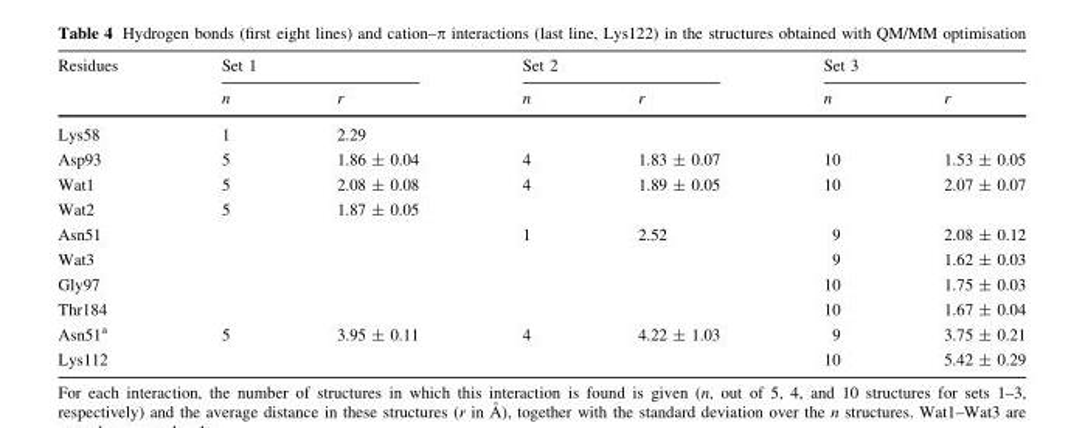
<table><thead><tr><td rowspan="2">Residues</td><td colspan="2">Set 1</td><td colspan="2">Set 2</td><td colspan="2">Set 3</td></tr><tr><td>n</td><td>r</td><td>n</td><td>r</td><td>n</td><td>r</td></tr></thead><tbody><tr><td>Lys58</td><td>1</td><td>2.29</td><td></td><td></td><td></td><td></td></tr><tr><td>Asp93</td><td>5</td><td>1.86 ± 0.04</td><td>4</td><td>1.83 ± 0.07</td><td>10</td><td>1.53 ± 0.05</td></tr><tr><td>Wat1</td><td>5</td><td>2.08 ± 0.08</td><td>4</td><td>1.89 ± 0.05</td><td>10</td><td>2.07 ± 0.07</td></tr><tr><td>Wat2</td><td>5</td><td>1.87 ± 0.05</td><td></td><td></td><td></td><td></td></tr><tr><td>Asn51</td><td></td><td></td><td>1</td><td>2.52</td><td>9</td><td>2.08 ± 0.12</td></tr><tr><td>Wat3</td><td></td><td></td><td></td><td></td><td>9</td><td>1.62 ± 0.03</td></tr><tr><td>Gly97</td><td></td><td></td><td></td><td></td><td>10</td><td>1.75 ± 0.03</td></tr><tr><td>Thr184</td><td></td><td></td><td></td><td></td><td>10</td><td>1.67 ± 0.04</td></tr><tr><td>Asn51<sup>a</sup></td><td>5</td><td>3.95 ± 0.11</td><td>4</td><td>4.22 ± 1.03</td><td>9</td><td>3.75 ± 0.21</td></tr><tr><td>Lys112</td><td></td><td></td><td></td><td></td><td>10</td><td>5.42 ± 0.29</td></tr></tbody></table>